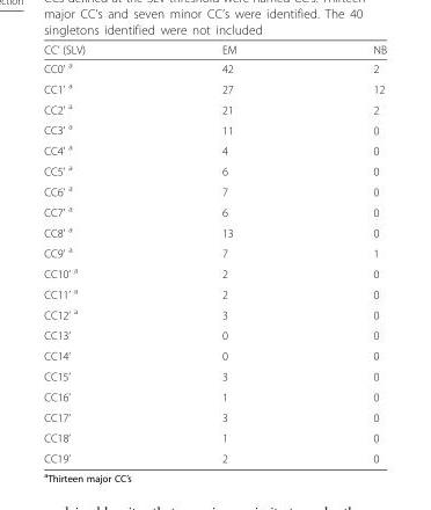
<table><thead><tr><td>CC’ (SLV)</td><td>EM</td><td>NB</td></tr></thead><tbody><tr><td>CC0’ <sup>a</sup></td><td>42</td><td>2</td></tr><tr><td>CC1’ <sup>a</sup></td><td>27</td><td>12</td></tr><tr><td>CC2’ <sup>a</sup></td><td>21</td><td>2</td></tr><tr><td>CC3’ <sup>a</sup></td><td>11</td><td>0</td></tr><tr><td>CC4’ <sup>a</sup></td><td>4</td><td>0</td></tr><tr><td>CC5’ <sup>a</sup></td><td>6</td><td>0</td></tr><tr><td>CC6’ <sup>a</sup></td><td>7</td><td>0</td></tr><tr><td>CC7’ <sup>a</sup></td><td>6</td><td>0</td></tr><tr><td>CC8’ <sup>a</sup></td><td>13</td><td>0</td></tr><tr><td>CC9’ <sup>a</sup></td><td>7</td><td>1</td></tr><tr><td>CC10’ <sup>a</sup></td><td>2</td><td>0</td></tr><tr><td>CC11’ <sup>a</sup></td><td>2</td><td>0</td></tr><tr><td>CC12’ <sup>a</sup></td><td>3</td><td>0</td></tr><tr><td>CC13’</td><td>0</td><td>0</td></tr><tr><td>CC14’</td><td>0</td><td>0</td></tr><tr><td>CC15’</td><td>3</td><td>0</td></tr><tr><td>CC16’</td><td>1</td><td>0</td></tr><tr><td>CC17’</td><td>3</td><td>0</td></tr><tr><td>CC18’</td><td>1</td><td>0</td></tr><tr><td>CC19’</td><td>2</td><td>0</td></tr></tbody></table>